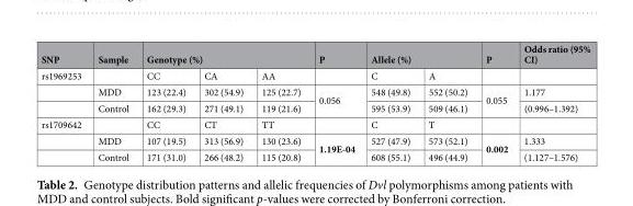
<table><thead><tr><td rowspan="2">SNP rs1969253</td><td rowspan="2">Sample</td><td colspan="3">Genotype (%)</td><td rowspan="2">P</td><td colspan="2">Allele (%)</td><td rowspan="2">P</td><td rowspan="2">Odds ratio (95% CI)</td></tr><tr><td>CC</td><td>CA</td><td>AA</td><td>C</td><td>A</td></tr></thead><tbody><tr><td></td><td>MDD</td><td>123 (22.4)</td><td>302 (54.9)</td><td>125 (22.7)</td><td rowspan="2">0.056</td><td>548 (49.8)</td><td>552 (50.2)</td><td rowspan="2">0.055</td><td>1.177</td></tr><tr><td></td><td>Control</td><td>162 (29.3)</td><td>271 (49.1)</td><td>119 (21.6)</td><td>595 (53.9)</td><td>509 (46.1)</td><td>(0.996–1.392)</td></tr><tr><td rowspan="3">rs1709642</td><td></td><td>CC</td><td>CT</td><td>TT</td><td></td><td>C</td><td>T</td><td></td><td></td></tr><tr><td>MDD</td><td>107 (19.5)</td><td>313 (56.9)</td><td>130 (23.6)</td><td rowspan="2">1.19E-04</td><td>527 (47.9)</td><td>573 (52.1)</td><td rowspan="2">0.002</td><td>1.333</td></tr><tr><td>Control</td><td>171 (31.0)</td><td>266 (48.2)</td><td>115 (20.8)</td><td>608 (55.1)</td><td>496 (44.9)</td><td>(1.127–1.576)</td></tr></tbody></table>